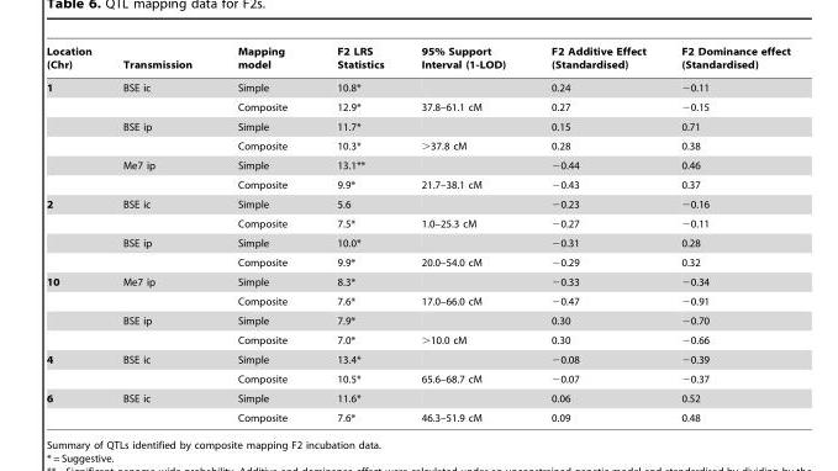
<table><thead><tr><td>Location (Chr)</td><td>Transmission</td><td>Mapping model</td><td>F2 LRS Statistics</td><td>95% Support Interval (1-LOD)</td><td>F2 Additive Effect (Standardised)</td><td>F2 Dominance effect (Standardised)</td></tr></thead><tbody><tr><td rowspan="6">1</td><td>BSE ic</td><td>Simple</td><td>10.8*</td><td></td><td>0.24</td><td>−0.11</td></tr><tr><td></td><td>Composite</td><td>12.9*</td><td>37.8–61.1 cM</td><td>0.27</td><td>−0.15</td></tr><tr><td>BSE ip</td><td>Simple</td><td>11.7*</td><td></td><td>0.15</td><td>0.71</td></tr><tr><td></td><td>Composite</td><td>10.3*</td><td>&gt;37.8 cM</td><td>0.28</td><td>0.38</td></tr><tr><td>Me7 ip</td><td>Simple</td><td>13.1**</td><td></td><td>−0.44</td><td>0.46</td></tr><tr><td></td><td>Composite</td><td>9.9*</td><td>21.7–38.1 cM</td><td>−0.43</td><td>0.37</td></tr><tr><td rowspan="4">2</td><td>BSE ic</td><td>Simple</td><td>5.6</td><td></td><td>−0.23</td><td>−0.16</td></tr><tr><td></td><td>Composite</td><td>7.5*</td><td>1.0–25.3 cM</td><td>−0.27</td><td>−0.11</td></tr><tr><td>BSE ip</td><td>Simple</td><td>10.0*</td><td></td><td>−0.31</td><td>0.28</td></tr><tr><td></td><td>Composite</td><td>9.9*</td><td>20.0–54.0 cM</td><td>−0.29</td><td>0.32</td></tr><tr><td rowspan="4">10</td><td>Me7 ip</td><td>Simple</td><td>8.3*</td><td></td><td>−0.33</td><td>−0.34</td></tr><tr><td></td><td>Composite</td><td>7.6*</td><td>17.0–66.0 cM</td><td>−0.47</td><td>−0.91</td></tr><tr><td>BSE ip</td><td>Simple</td><td>7.9*</td><td></td><td>0.30</td><td>−0.70</td></tr><tr><td></td><td>Composite</td><td>7.0*</td><td>&gt;10.0 cM</td><td>0.30</td><td>−0.66</td></tr><tr><td rowspan="2">4</td><td>BSE ic</td><td>Simple</td><td>13.4*</td><td></td><td>−0.08</td><td>−0.39</td></tr><tr><td></td><td>Composite</td><td>10.5*</td><td>65.6–68.7 cM</td><td>−0.07</td><td>−0.37</td></tr><tr><td rowspan="2">6</td><td>BSE ic</td><td>Simple</td><td>11.6*</td><td></td><td>0.06</td><td>0.52</td></tr><tr><td></td><td>Composite</td><td>7.6*</td><td>46.3–51.9 cM</td><td>0.09</td><td>0.48</td></tr></tbody></table>